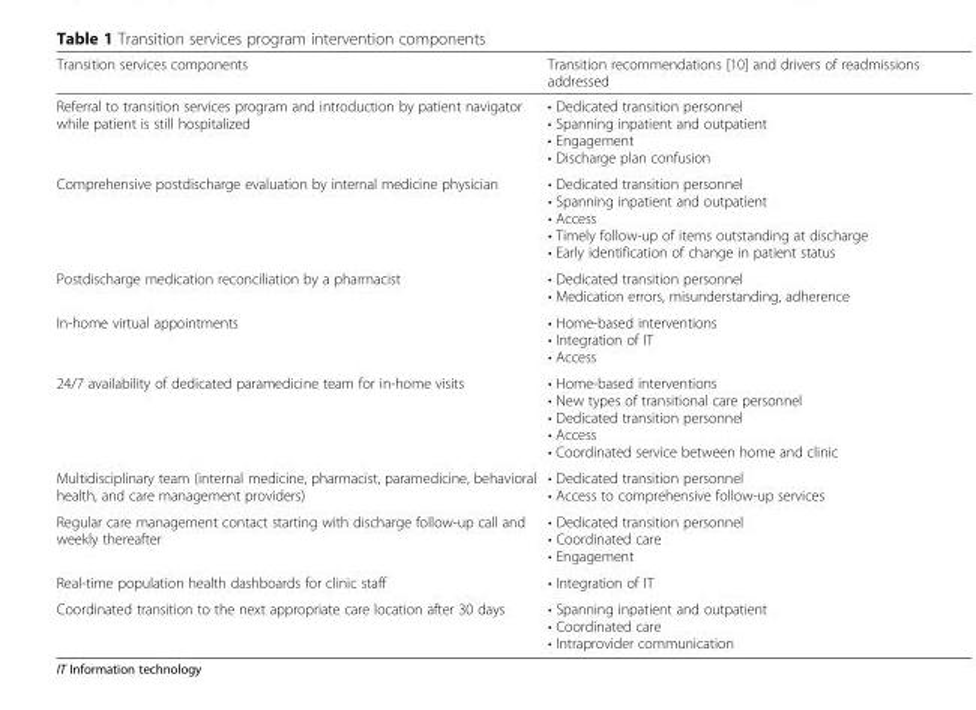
<table><thead><tr><td>Transition services components</td><td>Transition recommendations [10] and drivers of readmissions addressed</td></tr></thead><tbody><tr><td>Referral to transition services program and introduction by patient navigator while patient is still hospitalized</td><td>• Dedicated transition personnel • Spanning inpatient and outpatient • Engagement • Discharge plan confusion</td></tr><tr><td>Comprehensive postdischarge evaluation by internal medicine physician</td><td>• Dedicated transition personnel • Spanning inpatient and outpatient • Access • Timely follow-up of items outstanding at discharge • Early identification of change in patient status</td></tr><tr><td>Postdischarge medication reconciliation by a pharmacist</td><td>• Dedicated transition personnel • Medication errors, misunderstanding, adherence</td></tr><tr><td>In-home virtual appointments</td><td>• Home-based interventions • Integration of IT • Access</td></tr><tr><td>24/7 availability of dedicated paramedicine team for in-home visits</td><td>• Home-based interventions • New types of transitional care personnel • Dedicated transition personnel • Access • Coordinated service between home and clinic</td></tr><tr><td>Multidisciplinary team (internal medicine, pharmacist, paramedicine, behavioral health, and care management providers)</td><td>• Dedicated transition personnel • Access to comprehensive follow-up services</td></tr><tr><td>Regular care management contact starting with discharge follow-up call and weekly thereafter</td><td>• Dedicated transition personnel • Coordinated care • Engagement</td></tr><tr><td>Real-time population health dashboards for clinic staff</td><td>• Integration of IT</td></tr><tr><td>Coordinated transition to the next appropriate care location after 30 days</td><td>• Spanning inpatient and outpatient • Coordinated care • Intraprovider communication</td></tr></tbody></table>